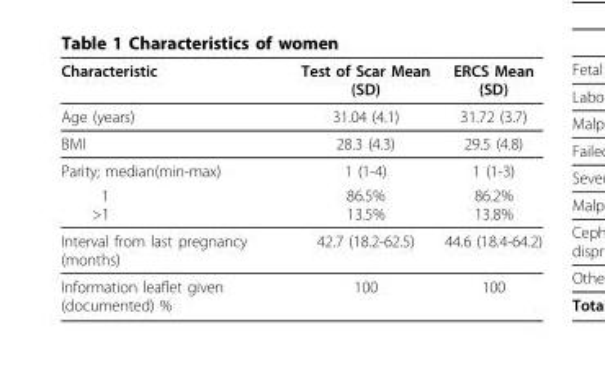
<table><thead><tr><td>Characteristic</td><td>Test of Scar Mean (SD)</td><td>ERCS Mean (SD)</td></tr></thead><tbody><tr><td>Age (years)</td><td>31.04 (4.1)</td><td>31.72 (3.7)</td></tr><tr><td>BMI</td><td>28.3 (4.3)</td><td>29.5 (4.8)</td></tr><tr><td>Parity; median(min-max)</td><td>1 (1-4)</td><td>1 (1-3)</td></tr><tr><td>1 &gt;1</td><td>86.5% 13.5%</td><td>86.2% 13.8%</td></tr><tr><td>Interval from last pregnancy (months)</td><td>42.7 (18.2-62.5)</td><td>44.6 (18.4-64.2)</td></tr><tr><td>Information leaflet given (documented) %</td><td>100</td><td>100</td></tr></tbody></table>